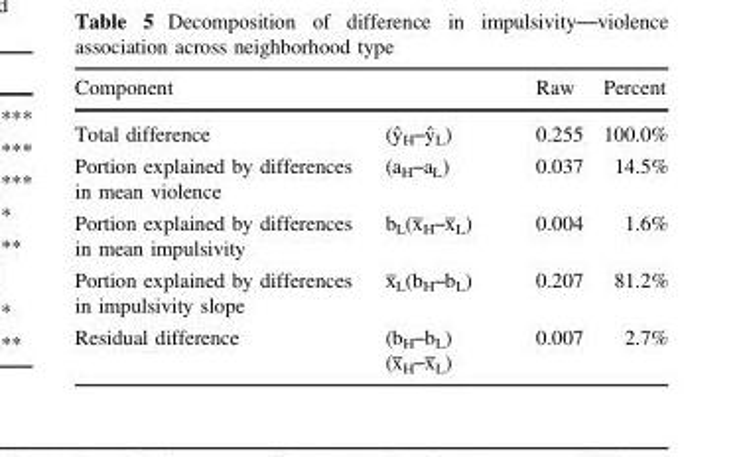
<table><thead><tr><td>Component</td><td></td><td>Raw</td><td>Percent</td></tr></thead><tbody><tr><td>Total difference</td><td>(ŷH–ŷL)</td><td>0.255</td><td>100.0%</td></tr><tr><td>Portion explained by differences in mean violence</td><td>(a<sub>H</sub>–a<sub>L</sub>)</td><td>0.037</td><td>14.5%</td></tr><tr><td>Portion explained by differences in mean impulsivity</td><td>b<sub>L</sub>(x̅<sub>H</sub>–x̅<sub>L</sub>)</td><td>0.004</td><td>1.6%</td></tr><tr><td>Portion explained by differences in impulsivity slope</td><td>x̅<sub>L</sub>(b<sub>H</sub>–b<sub>L</sub>)</td><td>0.207</td><td>81.2%</td></tr><tr><td>Residual difference</td><td>(b<sub>H</sub>–b<sub>L</sub>) (x̅<sub>H</sub>–x̅<sub>L</sub>)</td><td>0.007</td><td>2.7%</td></tr></tbody></table>